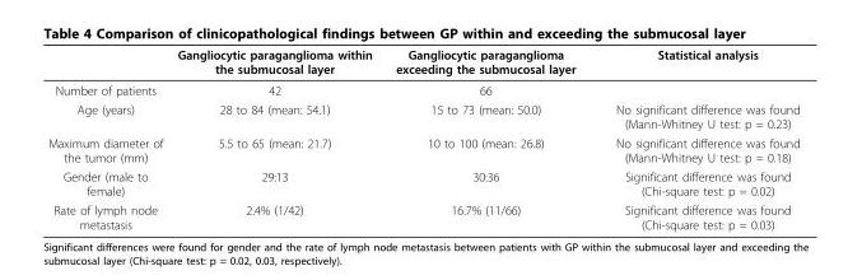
<table><thead><tr><td></td><td>Gangliocytic paraganglioma within the submucosal layer</td><td>Gangliocytic paraganglioma exceeding the submucosal layer</td><td>Statistical analysis</td></tr></thead><tbody><tr><td>Number of patients</td><td>42</td><td>66</td><td></td></tr><tr><td>Age (years)</td><td>28 to 84 (mean: 54.1)</td><td>15 to 73 (mean: 50.0)</td><td>No significant difference was found (Mann-Whitney U test: p = 0.23)</td></tr><tr><td>Maximum diameter of the tumor (mm)</td><td>5.5 to 65 (mean: 21.7)</td><td>10 to 100 (mean: 26.8)</td><td>No significant difference was found (Mann-Whitney U test: p = 0.18)</td></tr><tr><td>Gender (male to female)</td><td>29:13</td><td>30:36</td><td>Significant difference was found (Chi-square test: p = 0.02)</td></tr><tr><td>Rate of lymph node metastasis</td><td>2.4% (1/42)</td><td>16.7% (11/66)</td><td>Significant difference was found (Chi-square test: p = 0.03)</td></tr></tbody></table>